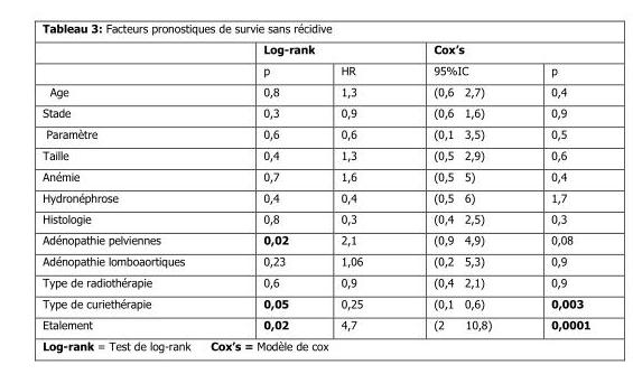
<table><thead><tr><td rowspan="2"></td><td colspan="2">Log-rank</td><td colspan="2">Cox’s</td></tr><tr><td>p</td><td>HR</td><td>95%IC</td><td>p</td></tr></thead><tbody><tr><td>Age</td><td>0,8</td><td>1,3</td><td>(0,6 2,7)</td><td>0,4</td></tr><tr><td>Stade</td><td>0,3</td><td>0,9</td><td>(0,6 1,6)</td><td>0,9</td></tr><tr><td>Paramètre</td><td>0,6</td><td>0,6</td><td>(0,1 3,5)</td><td>0,5</td></tr><tr><td>Taille</td><td>0,4</td><td>1,3</td><td>(0,5 2,9)</td><td>0,6</td></tr><tr><td>Anémie</td><td>0,7</td><td>1,6</td><td>(0,5 5)</td><td>0,4</td></tr><tr><td>Hydronéphrose</td><td>0,4</td><td>0,4</td><td>(0,5 6)</td><td>1,7</td></tr><tr><td>Histologie</td><td>0,8</td><td>0,3</td><td>(0,4 2,5)</td><td>0,3</td></tr><tr><td>Adénopathie pelviennes</td><td>0,02</td><td>2,1</td><td>(0,9 4,9)</td><td>0,08</td></tr><tr><td>Adénopathie lomboaortiques</td><td>0,23</td><td>1,06</td><td>(0,2 5,3)</td><td>0,9</td></tr><tr><td>Type de radiothérapie</td><td>0,6</td><td>0,9</td><td>(0,4 2,1)</td><td>0,9</td></tr><tr><td>Type de curiethérapie</td><td>0,05</td><td>0,25</td><td>(0,1 0,6)</td><td>0,003</td></tr><tr><td>Etalement</td><td>0,02</td><td>4,7</td><td>(2 10,8)</td><td>0,0001</td></tr></tbody></table>